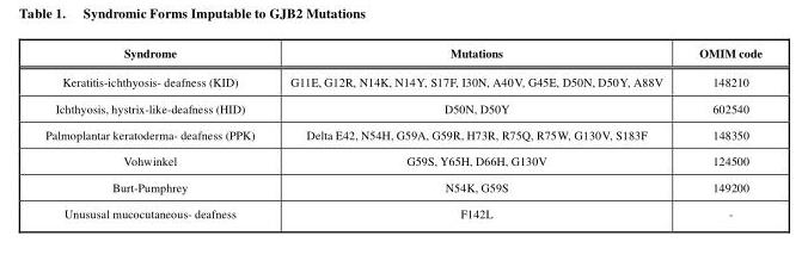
<table><thead><tr><td>Syndrome</td><td>Mutations</td><td>OMIM code</td></tr></thead><tbody><tr><td>Keratitis-ichthyosis- deafness (KID)</td><td>G11E, G12R, N14K, N14Y, S17F, I30N, A40V, G45E, D50N, D50Y, A88V</td><td>148210</td></tr><tr><td>Ichthyosis, hystrix-like-deafness (HID)</td><td>D50N, D50Y</td><td>602540</td></tr><tr><td>Palmoplantar keratoderma- deafness (PPK)</td><td>Delta E42, N54H, G59A, G59R, H73R, R75Q, R75W, G130V, S183F</td><td>148350</td></tr><tr><td>Vohwinkel</td><td>G59S, Y65H, D66H, G130V</td><td>124500</td></tr><tr><td>Burt-Pumphrey</td><td>N54K, G59S</td><td>149200</td></tr><tr><td>Unususal mucocutaneous- deafness</td><td>F142L</td><td>-</td></tr></tbody></table>